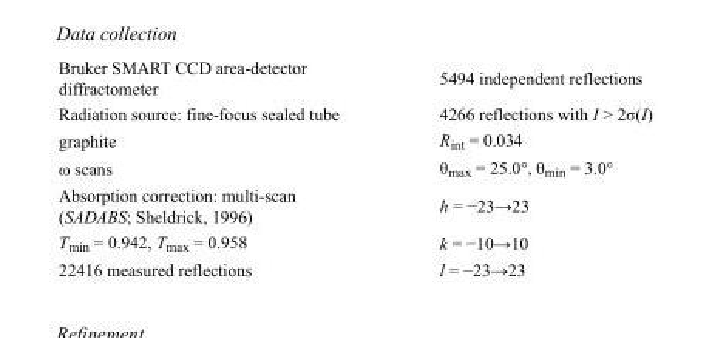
<table><tbody><tr><td>Bruker SMART CCD area-detector diffractometer</td><td>5494 independent reflections</td></tr><tr><td>Radiation source: fine-focus sealed tube</td><td>4266 reflections with I &gt; 2σ(I)</td></tr><tr><td>graphite</td><td>R<sub>int</sub> = 0.034</td></tr><tr><td>ω scans</td><td>θ<sub>max</sub> = 25.0°, θ<sub>min</sub> = 3.0°</td></tr><tr><td>Absorption correction: multi-scan (SADABS; Sheldrick, 1996)</td><td>h = −23→23</td></tr><tr><td>T<sub>min</sub> = 0.942, T<sub>max</sub> = 0.958</td><td>k = −10→10</td></tr><tr><td>22416 measured reflections</td><td>l = −23→23</td></tr></tbody></table>